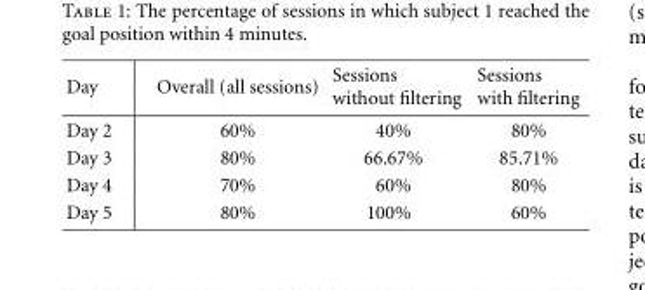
<table><thead><tr><td>Day</td><td>Overall (all sessions)</td><td>Sessions without filtering</td><td>Sessions with filtering</td></tr></thead><tbody><tr><td>Day 2</td><td>60%</td><td>40%</td><td>80%</td></tr><tr><td>Day 3</td><td>80%</td><td>66.67%</td><td>85.71%</td></tr><tr><td>Day 4</td><td>70%</td><td>60%</td><td>80%</td></tr><tr><td>Day 5</td><td>80%</td><td>100%</td><td>60%</td></tr></tbody></table>